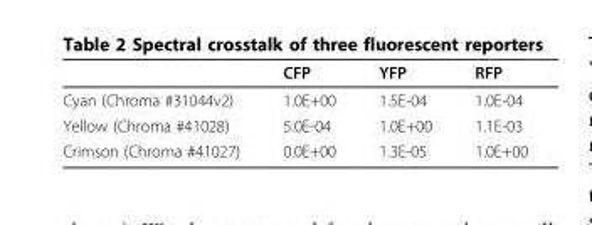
<table><thead><tr><td></td><td>CFP</td><td>YFP</td><td>RFP</td></tr></thead><tbody><tr><td>Cyan (Chroma #31044v2)</td><td>1.0E+00</td><td>1.5E-04</td><td>1.0E-04</td></tr><tr><td>Yellow (Chroma #41028)</td><td>5.0E-04</td><td>1.0E+00</td><td>1.1E-03</td></tr><tr><td>Crimson (Chroma #41027)</td><td>0.0E+00</td><td>1.3E-05</td><td>1.0E+00</td></tr></tbody></table>